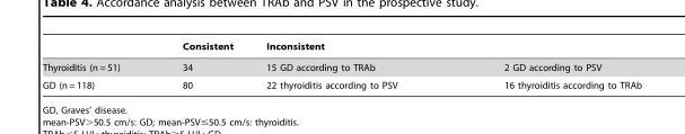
<table><thead><tr><td rowspan="2">Thyroiditis (n = 51)</td><td rowspan="2">Consistent 34</td><td colspan="2">Inconsistent</td></tr><tr><td>15 GD according to TRAb</td><td>2 GD according to PSV</td></tr></thead><tbody><tr><td>GD (n = 118)</td><td>80</td><td>22 thyroiditis according to PSV</td><td>16 thyroiditis according to TRAb</td></tr></tbody></table>